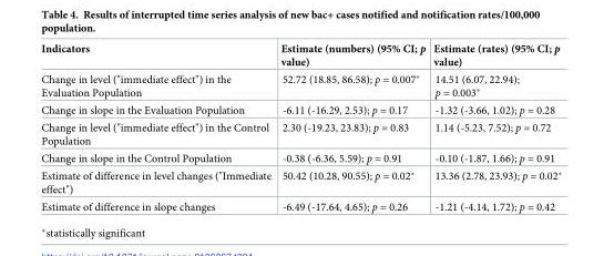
<table><thead><tr><td>Indicators</td><td>Estimate (numbers) (95% CI; p value)</td><td>Estimate (rates) (95% CI; p value)</td></tr></thead><tbody><tr><td>Change in level (&quot;immediate effect&quot;) in the Evaluation Population</td><td>52.72 (18.85, 86.58); p = 0.007*</td><td>14.51 (6.07, 22.94); p = 0.003*</td></tr><tr><td>Change in slope in the Evaluation Population</td><td>-6.11 (-16.29, 2.53); p = 0.17</td><td>-1.32 (-3.66, 1.02); p = 0.28</td></tr><tr><td>Change in level (&quot;immediate effect&quot;) in the Control Population</td><td>2.30 (-19.23, 23.83); p = 0.83</td><td>1.14 (-5.23, 7.52); p = 0.72</td></tr><tr><td>Change in slope in the Control Population</td><td>-0.38 (-6.36, 5.59); p = 0.91</td><td>-0.10 (-1.87, 1.66); p = 0.91</td></tr><tr><td>Estimate of difference in level changes (&quot;Immediate effect&quot;)</td><td>50.42 (10.28, 90.55); p = 0.02*</td><td>13.36 (2.78, 23.93); p = 0.02*</td></tr><tr><td>Estimate of difference in slope changes</td><td>-6.49 (-17.64, 4.65); p = 0.26</td><td>-1.21 (-4.14, 1.72); p = 0.42</td></tr></tbody></table>